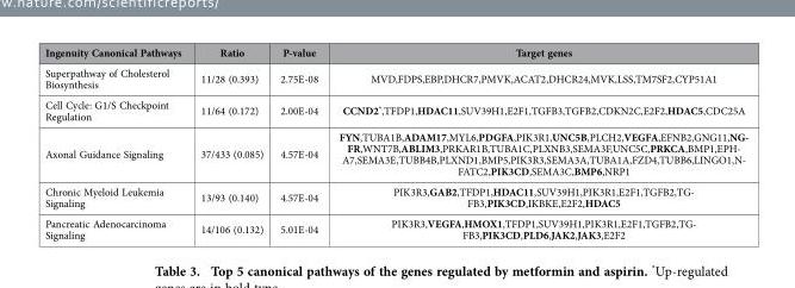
<table><thead><tr><td>Ingenuity Canonical Pathways</td><td>Ratio</td><td>P-value</td><td>Target genes</td></tr></thead><tbody><tr><td>Superpathway of Cholesterol Biosynthesis</td><td>11/28 (0.393)</td><td>2.75E-08</td><td>MVD,FDPS,EBP,DHCR7,PMVK,ACAT2,DHCR24,MVK,LSS,TM7SF2,CYP51A1</td></tr><tr><td>Cell Cycle: G1/S Checkpoint Regulation</td><td>11/64 (0.172)</td><td>2.00E-04</td><td>CCND2*,TFDP1,HDAC11,SUV39H1,E2F1,TGFB3,TGFB2,CDKN2C,E2F2,HDAC5,CDC25A</td></tr><tr><td>Axonal Guidance Signaling</td><td>37/433 (0.085)</td><td>4.57E-04</td><td>FYN,TUBA1B,ADAM17,MYL6,PDGFA,PIK3R1,UNC5B,PLCH2,VEGFA,EFNB2,GNG11,NG- FR,WNT7B,ABLIM3,PRKAR1B,TUBA1C,PLXNB3,SEMA3F,UNC5C,PRKCA,BMP1,EPH- A7,SEMA3E,TUBB4B,PLXND1,BMP5,PIK3R3,SEMA3A,TUBA1A,FZD4,TUBB6,LINGO1,N- FATC2,PIK3CD,SEMA3C,BMP6,NRP1</td></tr><tr><td>Chronic Myeloid Leukemia Signaling</td><td>13/93 (0.140)</td><td>4.57E-04</td><td>PIK3R3,GAB2,TFDP1,HDAC11,SUV39H1,PIK3R1,E2F1,TGFB2,TG- FB3,PIK3CD,IKBKE,E2F2,HDAC5</td></tr><tr><td>Pancreatic Adenocarcinoma Signaling</td><td>14/106 (0.132)</td><td>5.01E-04</td><td>PIK3R3,VEGFA,HMOX1,TFDP1,SUV39H1,PIK3R1,E2F1,TGFB2,TG- FB3,PIK3CD,PLD6,JAK2,JAK3,E2F2</td></tr></tbody></table>